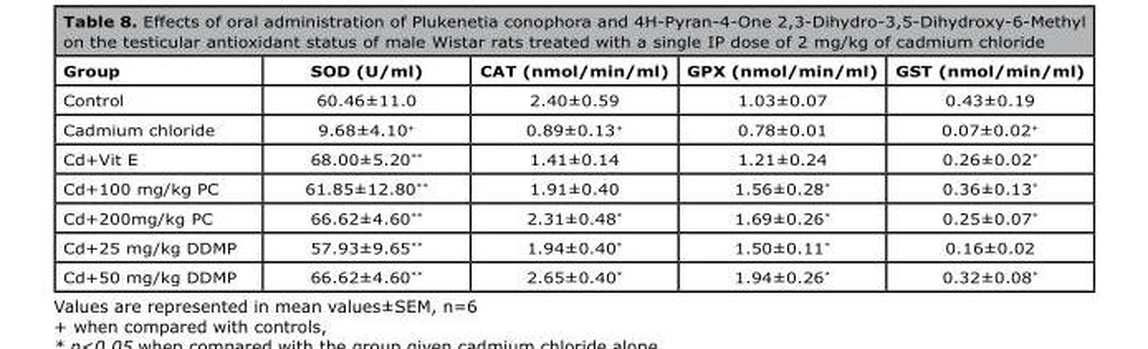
<table><thead><tr><td>Group</td><td>SOD (U/ml)</td><td>CAT (nmol/min/ml)</td><td>GPX (nmol/min/ml)</td><td>GST (nmol/min/ml)</td></tr></thead><tbody><tr><td>Control</td><td>60.46±11.0</td><td>2.40±0.59</td><td>1.03±0.07</td><td>0.43±0.19</td></tr><tr><td>Cadmium chloride</td><td>9.68±4.10<sup>+</sup></td><td>0.89±0.13<sup>+</sup></td><td>0.78±0.01</td><td>0.07±0.02<sup>+</sup></td></tr><tr><td>Cd+Vit E</td><td>68.00±5.20**</td><td>1.41±0.14</td><td>1.21±0.24</td><td>0.26±0.02*</td></tr><tr><td>Cd+100 mg/kg PC</td><td>61.85±12.80**</td><td>1.91±0.40</td><td>1.56±0.28*</td><td>0.36±0.13*</td></tr><tr><td>Cd+200mg/kg PC</td><td>66.62±4.60**</td><td>2.31±0.48*</td><td>1.69±0.26*</td><td>0.25±0.07*</td></tr><tr><td>Cd+25 mg/kg DDMP</td><td>57.93±9.65**</td><td>1.94±0.40*</td><td>1.50±0.11*</td><td>0.16±0.02</td></tr><tr><td>Cd+50 mg/kg DDMP</td><td>66.62±4.60**</td><td>2.65±0.40*</td><td>1.94±0.26*</td><td>0.32±0.08*</td></tr></tbody></table>